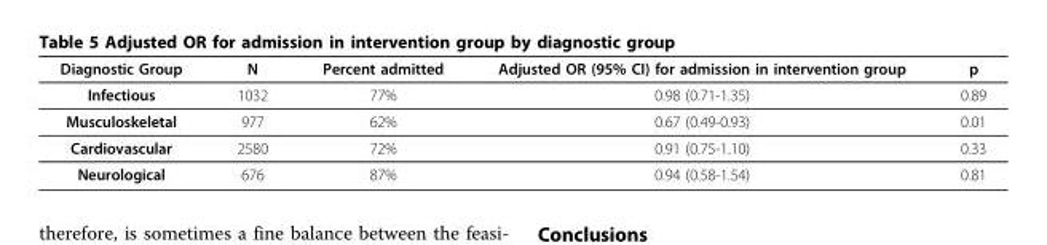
<table><thead><tr><td>Diagnostic Group</td><td>N</td><td>Percent admitted</td><td>Adjusted OR (95% CI) for admission in intervention group</td><td>p</td></tr></thead><tbody><tr><td>Infectious</td><td>1032</td><td>77%</td><td>0.98 (0.71-1.35)</td><td>0.89</td></tr><tr><td>Musculoskeletal</td><td>977</td><td>62%</td><td>0.67 (0.49-0.93)</td><td>0.01</td></tr><tr><td>Cardiovascular</td><td>2580</td><td>72%</td><td>0.91 (0.75-1.10)</td><td>0.33</td></tr><tr><td>Neurological</td><td>676</td><td>87%</td><td>0.94 (0.58-1.54)</td><td>0.81</td></tr></tbody></table>